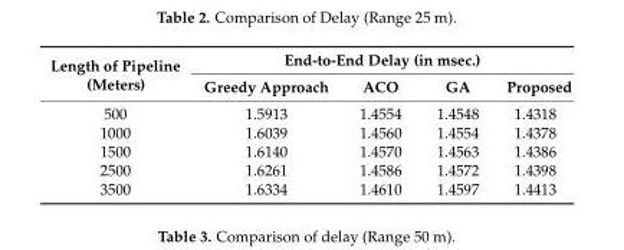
<table><thead><tr><td rowspan="2">Length of Pipeline (Meters)</td><td colspan="4">End-to-End Delay (in msec.)</td></tr><tr><td>Greedy Approach</td><td>ACO</td><td>GA</td><td>Proposed</td></tr></thead><tbody><tr><td>500</td><td>1.5913</td><td>1.4554</td><td>1.4548</td><td>1.4318</td></tr><tr><td>1000</td><td>1.6039</td><td>1.4560</td><td>1.4554</td><td>1.4378</td></tr><tr><td>1500</td><td>1.6140</td><td>1.4570</td><td>1.4563</td><td>1.4386</td></tr><tr><td>2500</td><td>1.6261</td><td>1.4586</td><td>1.4572</td><td>1.4398</td></tr><tr><td>3500</td><td>1.6334</td><td>1.4610</td><td>1.4597</td><td>1.4413</td></tr></tbody></table>